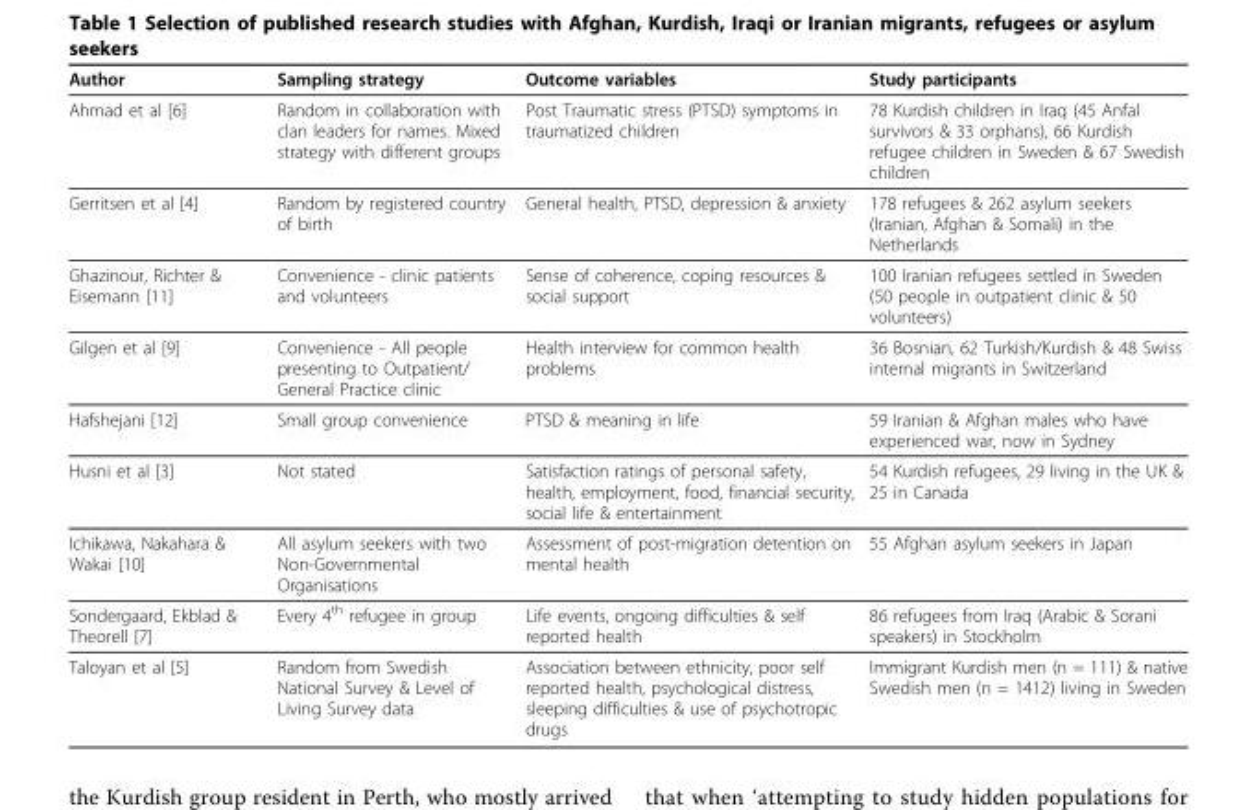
<table><thead><tr><td>Author</td><td>Sampling strategy</td><td>Outcome variables</td><td>Study participants</td></tr></thead><tbody><tr><td>Ahmad et al [6]</td><td>Random in collaboration with clan leaders for names. Mixed strategy with different groups</td><td>Post Traumatic stress (PTSD) symptoms in traumatized children</td><td>78 Kurdish children in Iraq (45 Anfal survivors &amp; 33 orphans), 66 Kurdish refugee children in Sweden &amp; 67 Swedish children</td></tr><tr><td>Gerritsen et al [4]</td><td>Random by registered country of birth</td><td>General health, PTSD, depression &amp; anxiety</td><td>178 refugees &amp; 262 asylum seekers (Iranian, Afghan &amp; Somali) in the Netherlands</td></tr><tr><td>Ghazinour, Richter &amp; Eisemann [11]</td><td>Convenience - clinic patients and volunteers</td><td>Sense of coherence, coping resources &amp; social support</td><td>100 Iranian refugees settled in Sweden (50 people in outpatient clinic &amp; 50 volunteers)</td></tr><tr><td>Gilgen et al [9]</td><td>Convenience - All people presenting to Outpatient/ General Practice clinic</td><td>Health interview for common health problems</td><td>36 Bosnian, 62 Turkish/Kurdish &amp; 48 Swiss internal migrants in Switzerland</td></tr><tr><td>Hafshejani [12]</td><td>Small group convenience</td><td>PTSD &amp; meaning in life</td><td>59 Iranian &amp; Afghan males who have experienced war, now in Sydney</td></tr><tr><td>Husni et al [3]</td><td>Not stated</td><td>Satisfaction ratings of personal safety, health, employment, food, financial security, social life &amp; entertainment</td><td>54 Kurdish refugees, 29 living in the UK &amp; 25 in Canada</td></tr><tr><td>Ichikawa, Nakahara &amp; Wakai [10]</td><td>All asylum seekers with two Non-Governmental Organisations</td><td>Assessment of post-migration detention on mental health</td><td>55 Afghan asylum seekers in Japan</td></tr><tr><td>Sondergaard, Ekblad &amp; Theorell [7]</td><td>Every 4<sup>th</sup> refugee in group</td><td>Life events, ongoing difficulties &amp; self reported health</td><td>86 refugees from Iraq (Arabic &amp; Sorani speakers) in Stockholm</td></tr><tr><td>Taloyan et al [5]</td><td>Random from Swedish National Survey &amp; Level of Living Survey data</td><td>Association between ethnicity, poor self reported health, psychological distress, sleeping difficulties &amp; use of psychotropic drugs</td><td>Immigrant Kurdish men (n = 111) &amp; native Swedish men (n = 1412) living in Sweden</td></tr></tbody></table>